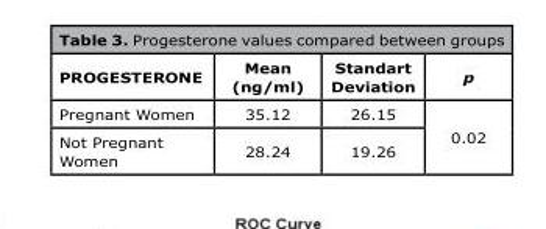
<table><thead><tr><td>PROGESTERONE</td><td>Mean (ng/ml)</td><td>Standart Deviation</td><td>p</td></tr></thead><tbody><tr><td>Pregnant Women</td><td>35.12</td><td>26.15</td><td rowspan="2">0.02</td></tr><tr><td>Not Pregnant Women</td><td>28.24</td><td>19.26</td></tr></tbody></table>